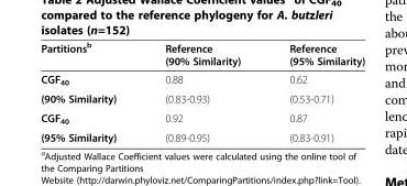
<table><thead><tr><td>Partitions<sup>b</sup></td><td>Reference (90% Similarity)</td><td>Reference (95% Similarity)</td></tr></thead><tbody><tr><td>CGF<sub>40</sub></td><td>0.88</td><td>0.62</td></tr><tr><td>(90% Similarity)</td><td>(0.83-0.93)</td><td>(0.53-0.71)</td></tr><tr><td>CGF<sub>40</sub></td><td>0.92</td><td>0.87</td></tr><tr><td>(95% Similarity)</td><td>(0.89-0.95)</td><td>(0.83-0.91)</td></tr></tbody></table>